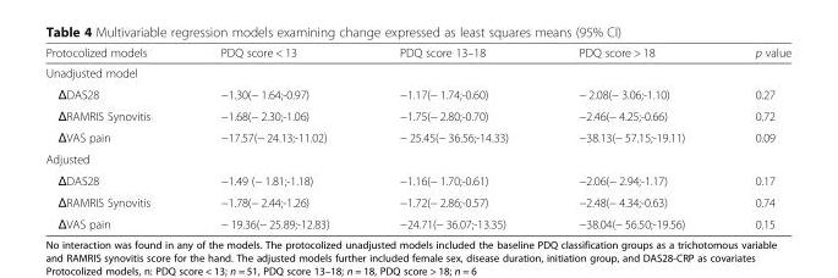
<table><thead><tr><td>Protocolized models</td><td>PDQ score &lt; 13</td><td>PDQ score 13–18</td><td>PDQ score &gt; 18</td><td>p value</td></tr></thead><tbody><tr><td colspan="5">Unadjusted model</td></tr><tr><td>ΔDAS28</td><td>−1.30(− 1.64;-0.97)</td><td>−1.17(− 1.74;-0.60)</td><td>− 2.08(− 3.06;-1.10)</td><td>0.27</td></tr><tr><td>ΔRAMRIS Synovitis</td><td>−1.68(− 2.30;-1.06)</td><td>−1.75(− 2.80;-0.70)</td><td>−2.46(− 4.25;-0.66)</td><td>0.72</td></tr><tr><td>ΔVAS pain</td><td>−17.57(− 24.13;-11.02)</td><td>− 25.45(− 36.56;-14.33)</td><td>−38.13(− 57.15;-19.11)</td><td>0.09</td></tr><tr><td colspan="5">Adjusted</td></tr><tr><td>ΔDAS28</td><td>−1.49 (− 1.81;-1.18)</td><td>−1.16(− 1.70;-0.61)</td><td>−2.06(− 2.94;-1.17)</td><td>0.17</td></tr><tr><td>ΔRAMRIS Synovitis</td><td>−1.78(− 2.44;-1.26)</td><td>−1.72(− 2.86;-0.57)</td><td>−2.48(− 4.34;-0.63)</td><td>0.74</td></tr><tr><td>ΔVAS pain</td><td>− 19.36(− 25.89;-12.83)</td><td>−24.71(− 36.07;-13.35)</td><td>−38.04(− 56.50;-19.56)</td><td>0.15</td></tr></tbody></table>